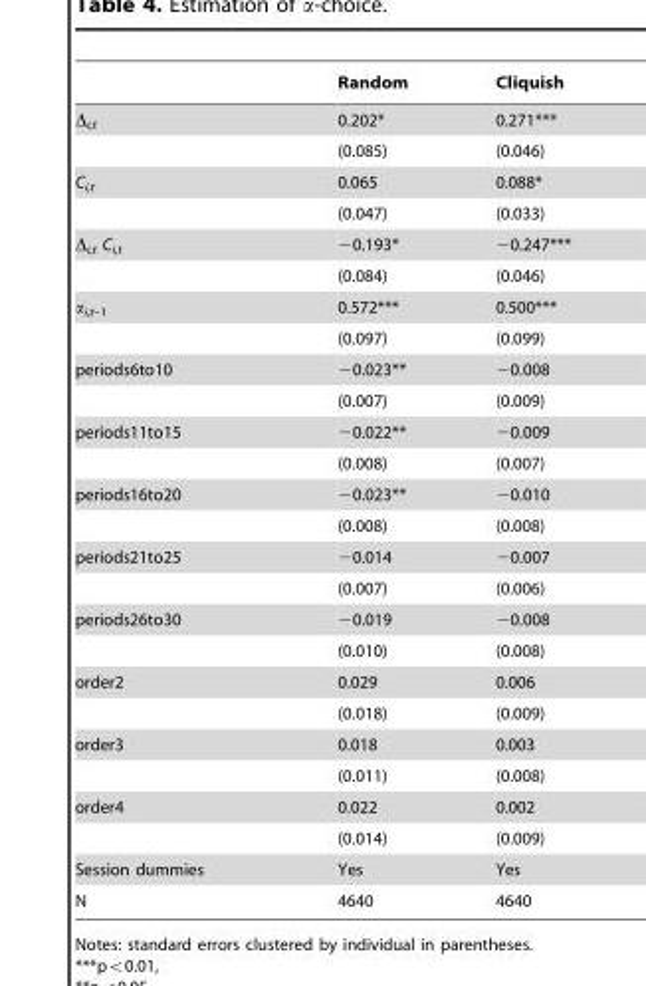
<table><thead><tr><td></td><td>Random</td><td>Cliquish</td></tr></thead><tbody><tr><td rowspan="2">Δ<sub>i,t</sub></td><td>0.202*</td><td>0.271***</td></tr><tr><td>(0.085)</td><td>(0.046)</td></tr><tr><td rowspan="2">C<sub>i,t</sub></td><td>0.065</td><td>0.088*</td></tr><tr><td>(0.047)</td><td>(0.033)</td></tr><tr><td rowspan="2">Δ<sub>i,t</sub> C<sub>i,t</sub></td><td>−0.193*</td><td>−0.247***</td></tr><tr><td>(0.084)</td><td>(0.046)</td></tr><tr><td rowspan="2">α<sub>i,t–1</sub></td><td>0.572***</td><td>0.500***</td></tr><tr><td>(0.097)</td><td>(0.099)</td></tr><tr><td rowspan="2">periods6to10</td><td>−0.023**</td><td>−0.008</td></tr><tr><td>(0.007)</td><td>(0.009)</td></tr><tr><td rowspan="2">periods11to15</td><td>−0.022**</td><td>−0.009</td></tr><tr><td>(0.008)</td><td>(0.007)</td></tr><tr><td rowspan="2">periods16to20</td><td>−0.023**</td><td>−0.010</td></tr><tr><td>(0.008)</td><td>(0.008)</td></tr><tr><td rowspan="2">periods21to25</td><td>−0.014</td><td>−0.007</td></tr><tr><td>(0.007)</td><td>(0.006)</td></tr><tr><td rowspan="2">periods26to30</td><td>−0.019</td><td>−0.008</td></tr><tr><td>(0.010)</td><td>(0.008)</td></tr><tr><td rowspan="2">order2</td><td>0.029</td><td>0.006</td></tr><tr><td>(0.018)</td><td>(0.009)</td></tr><tr><td rowspan="2">order3</td><td>0.018</td><td>0.003</td></tr><tr><td>(0.011)</td><td>(0.008)</td></tr><tr><td rowspan="2">order4</td><td>0.022</td><td>0.002</td></tr><tr><td>(0.014)</td><td>(0.009)</td></tr><tr><td>Session dummies</td><td>Yes</td><td>Yes</td></tr><tr><td>N</td><td>4640</td><td>4640</td></tr></tbody></table>